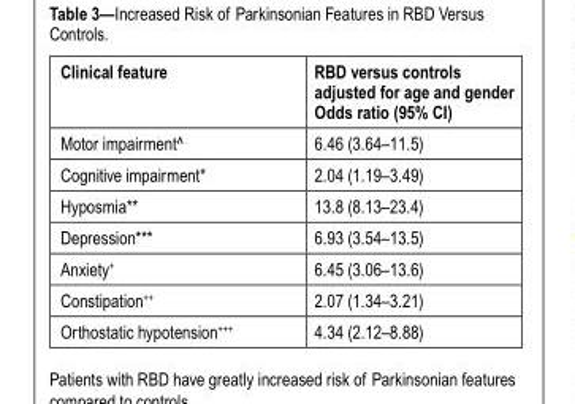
<table><thead><tr><td>Clinical feature</td><td>RBD versus controls adjusted for age and gender Odds ratio (95% CI)</td></tr></thead><tbody><tr><td>Motor impairment^</td><td>6.46 (3.64–11.5)</td></tr><tr><td>Cognitive impairment*</td><td>2.04 (1.19–3.49)</td></tr><tr><td>Hyposmia**</td><td>13.8 (8.13–23.4)</td></tr><tr><td>Depression***</td><td>6.93 (3.54–13.5)</td></tr><tr><td>Anxiety<sup>+</sup></td><td>6.45 (3.06–13.6)</td></tr><tr><td>Constipation<sup>++</sup></td><td>2.07 (1.34–3.21)</td></tr><tr><td>Orthostatic hypotension<sup>+++</sup></td><td>4.34 (2.12–8.88)</td></tr></tbody></table>